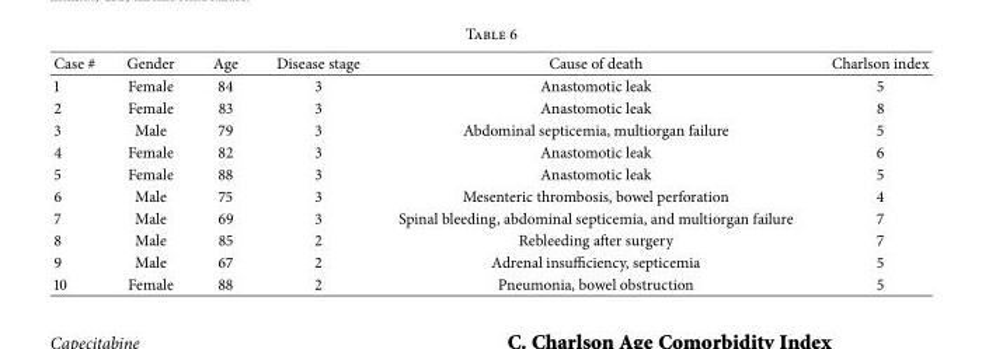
<table><thead><tr><td>Case #</td><td>Gender</td><td>Age</td><td>Disease stage</td><td>Cause of death</td><td>Charlson index</td></tr></thead><tbody><tr><td>1</td><td>Female</td><td>84</td><td>3</td><td>Anastomotic leak</td><td>5</td></tr><tr><td>2</td><td>Female</td><td>83</td><td>3</td><td>Anastomotic leak</td><td>8</td></tr><tr><td>3</td><td>Male</td><td>79</td><td>3</td><td>Abdominal septicemia, multiorgan failure</td><td>5</td></tr><tr><td>4</td><td>Female</td><td>82</td><td>3</td><td>Anastomotic leak</td><td>6</td></tr><tr><td>5</td><td>Female</td><td>88</td><td>3</td><td>Anastomotic leak</td><td>5</td></tr><tr><td>6</td><td>Male</td><td>75</td><td>3</td><td>Mesenteric thrombosis, bowel perforation</td><td>4</td></tr><tr><td>7</td><td>Male</td><td>69</td><td>3</td><td>Spinal bleeding, abdominal septicemia, and multiorgan failure</td><td>7</td></tr><tr><td>8</td><td>Male</td><td>85</td><td>2</td><td>Rebleeding after surgery</td><td>7</td></tr><tr><td>9</td><td>Male</td><td>67</td><td>2</td><td>Adrenal insufficiency, septicemia</td><td>5</td></tr><tr><td>10</td><td>Female</td><td>88</td><td>2</td><td>Pneumonia, bowel obstruction</td><td>5</td></tr></tbody></table>